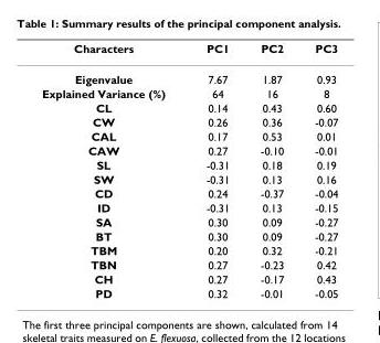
<table><thead><tr><td>Characters</td><td>PC1</td><td>PC2</td><td>PC3</td></tr></thead><tbody><tr><td>Eigenvalue</td><td>7.67</td><td>1.87</td><td>0.93</td></tr><tr><td>Explained Variance (%)</td><td>64</td><td>16</td><td>8</td></tr><tr><td>CL</td><td>0.14</td><td>0.43</td><td>0.60</td></tr><tr><td>CW</td><td>0.26</td><td>0.36</td><td>-0.07</td></tr><tr><td>CAL</td><td>0.17</td><td>0.53</td><td>0.01</td></tr><tr><td>CAW</td><td>0.27</td><td>-0.10</td><td>-0.01</td></tr><tr><td>SL</td><td>-0.31</td><td>0.18</td><td>0.19</td></tr><tr><td>SW</td><td>-0.31</td><td>0.13</td><td>0.16</td></tr><tr><td>CD</td><td>0.24</td><td>-0.37</td><td>-0.04</td></tr><tr><td>ID</td><td>-0.31</td><td>0.13</td><td>-0.15</td></tr><tr><td>SA</td><td>0.30</td><td>0.09</td><td>-0.27</td></tr><tr><td>BT</td><td>0.30</td><td>0.09</td><td>-0.27</td></tr><tr><td>TBM</td><td>0.20</td><td>0.32</td><td>-0.21</td></tr><tr><td>TBN</td><td>0.27</td><td>-0.23</td><td>0.42</td></tr><tr><td>CH</td><td>0.27</td><td>-0.17</td><td>0.43</td></tr><tr><td>PD</td><td>0.32</td><td>-0.01</td><td>-0.05</td></tr></tbody></table>